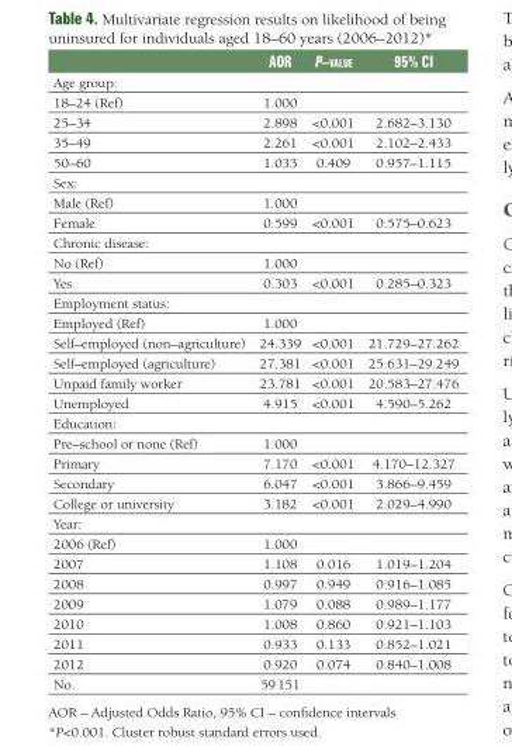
<table><thead><tr><td></td><td>AOR</td><td>P–vAlue</td><td>95% CI</td></tr></thead><tbody><tr><td colspan="4">Age group:</td></tr><tr><td>18–24 (Ref)</td><td>1.000</td><td></td><td></td></tr><tr><td>25–34</td><td>2.898</td><td>&lt;0.001</td><td>2.682–3.130</td></tr><tr><td>35–49</td><td>2.261</td><td>&lt;0.001</td><td>2.102–2.433</td></tr><tr><td>50–60</td><td>1.033</td><td>0.409</td><td>0.957–1.115</td></tr><tr><td colspan="4">Sex:</td></tr><tr><td>Male (Ref)</td><td>1.000</td><td></td><td></td></tr><tr><td>Female</td><td>0.599</td><td>&lt;0.001</td><td>0.575–0.623</td></tr><tr><td colspan="4">Chronic disease:</td></tr><tr><td>No (Ref)</td><td>1.000</td><td></td><td></td></tr><tr><td>Yes</td><td>0.303</td><td>&lt;0.001</td><td>0.285–0.323</td></tr><tr><td colspan="4">Employment status:</td></tr><tr><td>Employed (Ref)</td><td>1.000</td><td></td><td></td></tr><tr><td>Self–employed (non–agriculture)</td><td>24.339</td><td>&lt;0.001</td><td>21.729–27.262</td></tr><tr><td>Self–employed (agriculture)</td><td>27.381</td><td>&lt;0.001</td><td>25.631–29.249</td></tr><tr><td>Unpaid family worker</td><td>23.781</td><td>&lt;0.001</td><td>20.583–27.476</td></tr><tr><td>Unemployed</td><td>4.915</td><td>&lt;0.001</td><td>4.590–5.262</td></tr><tr><td colspan="4">Education:</td></tr><tr><td>Pre–school or none (Ref)</td><td>1.000</td><td></td><td></td></tr><tr><td>Primary</td><td>7.170</td><td>&lt;0.001</td><td>4.170–12.327</td></tr><tr><td>Secondary</td><td>6.047</td><td>&lt;0.001</td><td>3.866–9.459</td></tr><tr><td>College or university</td><td>3.182</td><td>&lt;0.001</td><td>2.029–4.990</td></tr><tr><td colspan="4">Year:</td></tr><tr><td>2006 (Ref)</td><td>1.000</td><td></td><td></td></tr><tr><td>2007</td><td>1.108</td><td>0.016</td><td>1.019–1.204</td></tr><tr><td>2008</td><td>0.997</td><td>0.949</td><td>0.916–1.085</td></tr><tr><td>2009</td><td>1.079</td><td>0.088</td><td>0.989–1.177</td></tr><tr><td>2010</td><td>1.008</td><td>0.860</td><td>0.921–1.103</td></tr><tr><td>2011</td><td>0.933</td><td>0.133</td><td>0.852–1.021</td></tr><tr><td>2012</td><td>0.920</td><td>0.074</td><td>0.840–1.008</td></tr><tr><td>No.</td><td>59 151</td><td></td><td></td></tr></tbody></table>